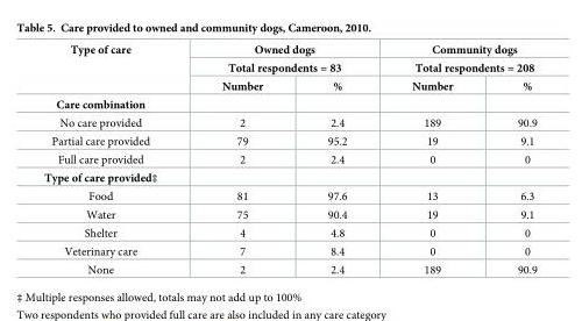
<table><thead><tr><td rowspan="3">Type of care</td><td rowspan="2" colspan="2">Owned dogs Total respondents = 83</td><td rowspan="2" colspan="2">Community dogs Total respondents = 208</td></tr><tr></tr><tr><td>Number</td><td>%</td><td>Number</td><td>%</td></tr></thead><tbody><tr><td colspan="5">Care combination</td></tr><tr><td>No care provided</td><td>2</td><td>2.4</td><td>189</td><td>90.9</td></tr><tr><td>Partial care provided</td><td>79</td><td>95.2</td><td>19</td><td>9.1</td></tr><tr><td>Full care provided</td><td>2</td><td>2.4</td><td>0</td><td>0</td></tr><tr><td colspan="5">Type of care provided‡</td></tr><tr><td>Food</td><td>81</td><td>97.6</td><td>13</td><td>6.3</td></tr><tr><td>Water</td><td>75</td><td>90.4</td><td>19</td><td>9.1</td></tr><tr><td>Shelter</td><td>4</td><td>4.8</td><td>0</td><td>0</td></tr><tr><td>Veterinary care</td><td>7</td><td>8.4</td><td>0</td><td>0</td></tr><tr><td>None</td><td>2</td><td>2.4</td><td>189</td><td>90.9</td></tr></tbody></table>